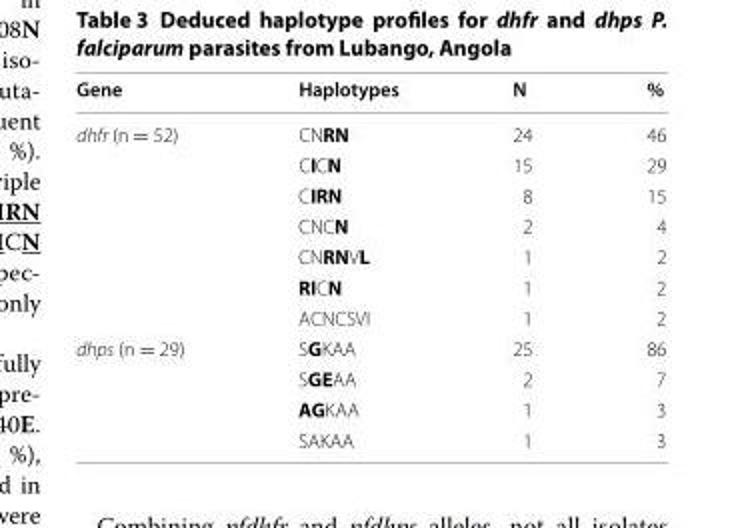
<table><thead><tr><td>Gene</td><td>Haplotypes</td><td>N</td><td>%</td></tr></thead><tbody><tr><td rowspan="7">dhfr (n = 52)</td><td>CNRN</td><td>24</td><td>46</td></tr><tr><td>CICN</td><td>15</td><td>29</td></tr><tr><td>CIRN</td><td>8</td><td>15</td></tr><tr><td>CNCN</td><td>2</td><td>4</td></tr><tr><td>CNRNVL</td><td>1</td><td>2</td></tr><tr><td>RICN</td><td>1</td><td>2</td></tr><tr><td>ACNCSVI</td><td>1</td><td>2</td></tr><tr><td rowspan="4">dhps (n = 29)</td><td>SGKAA</td><td>25</td><td>86</td></tr><tr><td>SGEAA</td><td>2</td><td>7</td></tr><tr><td>AGKAA</td><td>1</td><td>3</td></tr><tr><td>SAKAA</td><td>1</td><td>3</td></tr></tbody></table>